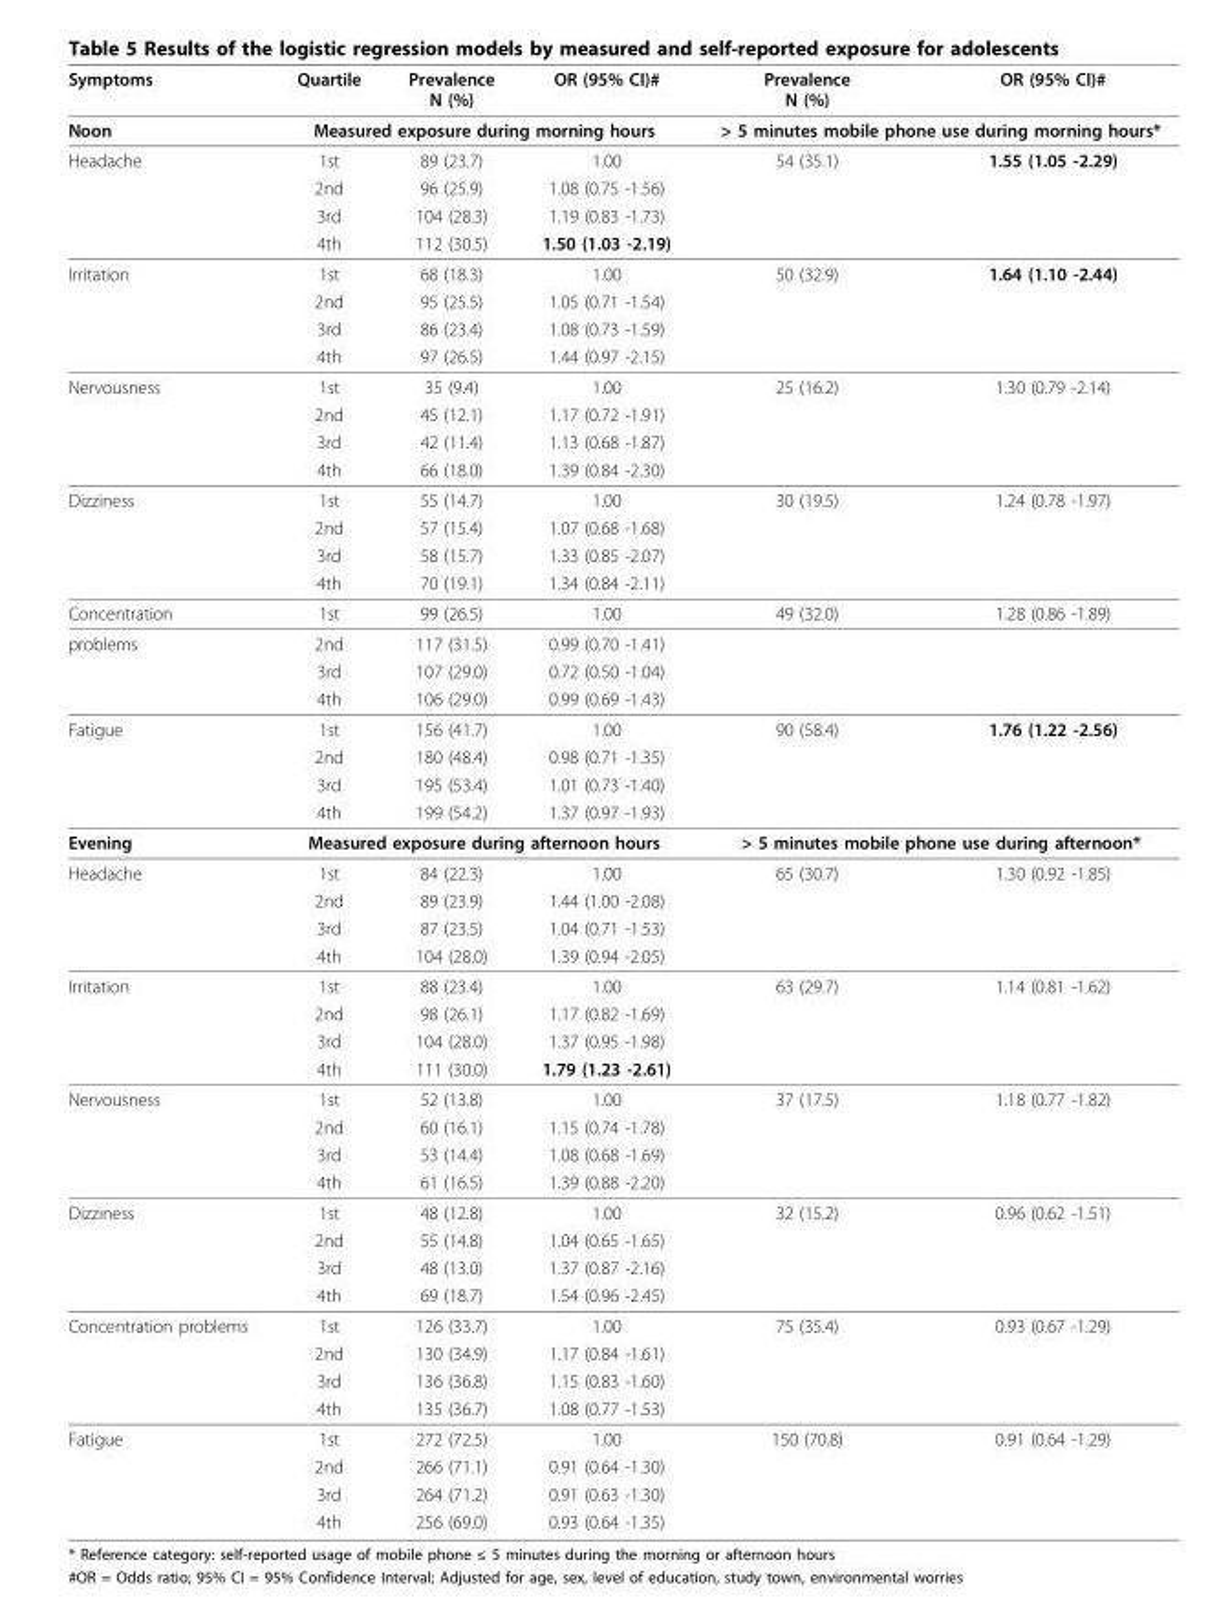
<table><thead><tr><td>Symptoms</td><td>Quartile</td><td>Prevalence N (%)</td><td>OR (95% CI)#</td><td>Prevalence N (%)</td><td>OR (95% CI)#</td></tr></thead><tbody><tr><td>Noon</td><td colspan="3">Measured exposure during morning hours</td><td colspan="2">&gt; 5 minutes mobile phone use during morning hours*</td></tr><tr><td rowspan="4">Headache</td><td>1st</td><td>89 (23.7)</td><td>1.00</td><td>54 (35.1)</td><td>1.55 (1.05 -2.29)</td></tr><tr><td>2nd</td><td>96 (25.9)</td><td>1.08 (0.75 -1.56)</td><td></td><td></td></tr><tr><td>3rd</td><td>104 (28.3)</td><td>1.19 (0.83 -1.73)</td><td></td><td></td></tr><tr><td>4th</td><td>112 (30.5)</td><td>1.50 (1.03 -2.19)</td><td></td><td></td></tr><tr><td rowspan="4">Irritation</td><td>1st</td><td>68 (18.3)</td><td>1.00</td><td>50 (32.9)</td><td>1.64 (1.10 -2.44)</td></tr><tr><td>2nd</td><td>95 (25.5)</td><td>1.05 (0.71 -1.54)</td><td></td><td></td></tr><tr><td>3rd</td><td>86 (23.4)</td><td>1.08 (0.73 -1.59)</td><td></td><td></td></tr><tr><td>4th</td><td>97 (26.5)</td><td>1.44 (0.97 -2.15)</td><td></td><td></td></tr><tr><td rowspan="4">Nervousness</td><td>1st</td><td>35 (9.4)</td><td>1.00</td><td>25 (16.2)</td><td>1.30 (0.79 -2.14)</td></tr><tr><td>2nd</td><td>45 (12.1)</td><td>1.17 (0.72 -1.91)</td><td></td><td></td></tr><tr><td>3rd</td><td>42 (11.4)</td><td>1.13 (0.68 -1.87)</td><td></td><td></td></tr><tr><td>4th</td><td>66 (18.0)</td><td>1.39 (0.84 -2.30)</td><td></td><td></td></tr><tr><td rowspan="4">Dizziness</td><td>1st</td><td>55 (14.7)</td><td>1.00</td><td>30 (19.5)</td><td>1.24 (0.78 -1.97)</td></tr><tr><td>2nd</td><td>57 (15.4)</td><td>1.07 (0.68 -1.68)</td><td></td><td></td></tr><tr><td>3rd</td><td>58 (15.7)</td><td>1.33 (0.85 -2.07)</td><td></td><td></td></tr><tr><td>4th</td><td>70 (19.1)</td><td>1.34 (0.84 -2.11)</td><td></td><td></td></tr><tr><td>Concentration</td><td>1st</td><td>99 (26.5)</td><td>1.00</td><td>49 (32.0)</td><td>1.28 (0.86 -1.89)</td></tr><tr><td rowspan="3">problems</td><td>2nd</td><td>117 (31.5)</td><td>0.99 (0.70 -1.41)</td><td></td><td></td></tr><tr><td>3rd</td><td>107 (29.0)</td><td>0.72 (0.50 -1.04)</td><td></td><td></td></tr><tr><td>4th</td><td>106 (29.0)</td><td>0.99 (0.69 -1.43)</td><td></td><td></td></tr><tr><td rowspan="4">Fatigue</td><td>1st</td><td>156 (41.7)</td><td>1.00</td><td>90 (58.4)</td><td>1.76 (1.22 -2.56)</td></tr><tr><td>2nd</td><td>180 (48.4)</td><td>0.98 (0.71 -1.35)</td><td></td><td></td></tr><tr><td>3rd</td><td>195 (53.4)</td><td>1.01 (0.73 -1.40)</td><td></td><td></td></tr><tr><td>4th</td><td>199 (54.2)</td><td>1.37 (0.97 -1.93)</td><td></td><td></td></tr><tr><td>Evening</td><td colspan="3">Measured exposure during afternoon hours</td><td colspan="2">&gt; 5 minutes mobile phone use during afternoon*</td></tr><tr><td rowspan="4">Headache</td><td>1st</td><td>84 (22.3)</td><td>1.00</td><td>65 (30.7)</td><td>1.30 (0.92 -1.85)</td></tr><tr><td>2nd</td><td>89 (23.9)</td><td>1.44 (1.00 -2.08)</td><td></td><td></td></tr><tr><td>3rd</td><td>87 (23.5)</td><td>1.04 (0.71 -1.53)</td><td></td><td></td></tr><tr><td>4th</td><td>104 (28.0)</td><td>1.39 (0.94 -2.05)</td><td></td><td></td></tr><tr><td rowspan="4">Irritation</td><td>1st</td><td>88 (23.4)</td><td>1.00</td><td>63 (29.7)</td><td>1.14 (0.81 -1.62)</td></tr><tr><td>2nd</td><td>98 (26.1)</td><td>1.17 (0.82 -1.69)</td><td></td><td></td></tr><tr><td>3rd</td><td>104 (28.0)</td><td>1.37 (0.95 -1.98)</td><td></td><td></td></tr><tr><td>4th</td><td>111 (30.0)</td><td>1.79 (1.23 -2.61)</td><td></td><td></td></tr><tr><td rowspan="4">Nervousness</td><td>1st</td><td>52 (13.8)</td><td>1.00</td><td>37 (17.5)</td><td>1.18 (0.77 -1.82)</td></tr><tr><td>2nd</td><td>60 (16.1)</td><td>1.15 (0.74 -1.78)</td><td></td><td></td></tr><tr><td>3rd</td><td>53 (14.4)</td><td>1.08 (0.68 -1.69)</td><td></td><td></td></tr><tr><td>4th</td><td>61 (16.5)</td><td>1.39 (0.88 -2.20)</td><td></td><td></td></tr><tr><td rowspan="4">Dizziness</td><td>1st</td><td>48 (12.8)</td><td>1.00</td><td>32 (15.2)</td><td>0.96 (0.62 -1.51)</td></tr><tr><td>2nd</td><td>55 (14.8)</td><td>1.04 (0.65 -1.65)</td><td></td><td></td></tr><tr><td>3rd</td><td>48 (13.0)</td><td>1.37 (0.87 -2.16)</td><td></td><td></td></tr><tr><td>4th</td><td>69 (18.7)</td><td>1.54 (0.96 -2.45)</td><td></td><td></td></tr><tr><td rowspan="4">Concentration problems</td><td>1st</td><td>126 (33.7)</td><td>1.00</td><td>75 (35.4)</td><td>0.93 (0.67 -1.29)</td></tr><tr><td>2nd</td><td>130 (34.9)</td><td>1.17 (0.84 -1.61)</td><td></td><td></td></tr><tr><td>3rd</td><td>136 (36.8)</td><td>1.15 (0.83 -1.60)</td><td></td><td></td></tr><tr><td>4th</td><td>135 (36.7)</td><td>1.08 (0.77 -1.53)</td><td></td><td></td></tr><tr><td rowspan="4">Fatigue</td><td>1st</td><td>272 (72.5)</td><td>1.00</td><td>150 (70.8)</td><td>0.91 (0.64 -1.29)</td></tr><tr><td>2nd</td><td>266 (71.1)</td><td>0.91 (0.64 -1.30)</td><td></td><td></td></tr><tr><td>3rd</td><td>264 (71.2)</td><td>0.91 (0.63 -1.30)</td><td></td><td></td></tr><tr><td>4th</td><td>256 (69.0)</td><td>0.93 (0.64 -1.35)</td><td></td><td></td></tr></tbody></table>